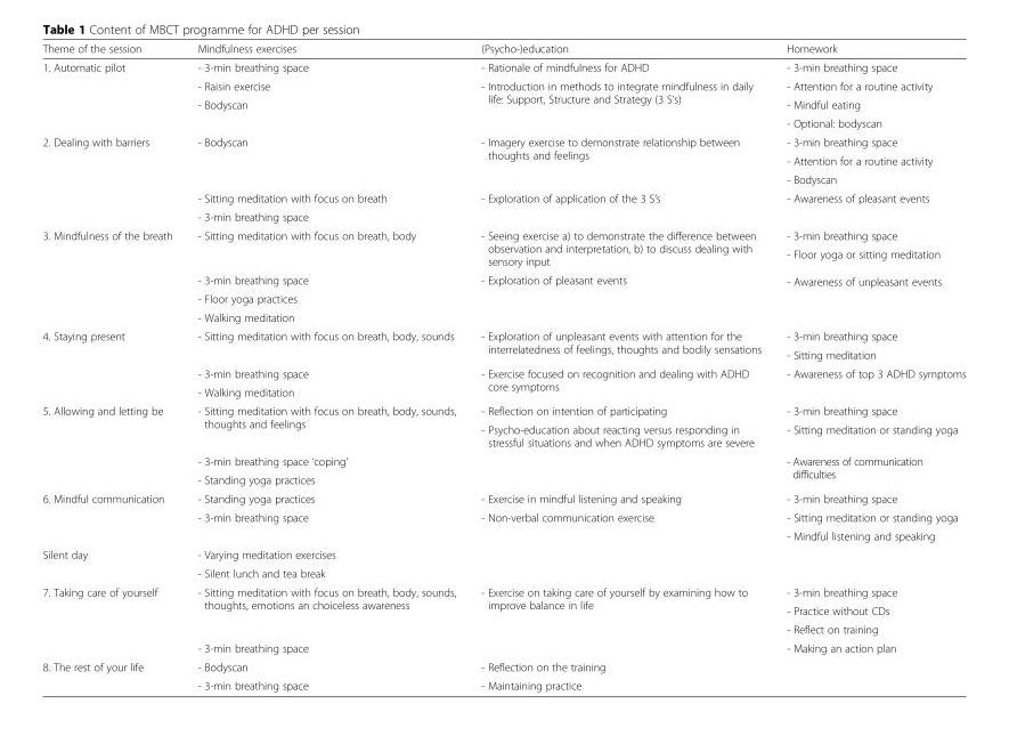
<table><thead><tr><td>Theme of the session</td><td>Mindfulness exercises</td><td>(Psycho-)education</td><td>Homework</td></tr></thead><tbody><tr><td rowspan="4">1. Automatic pilot</td><td>- 3-min breathing space</td><td>- Rationale of mindfulness for ADHD</td><td>- 3-min breathing space</td></tr><tr><td>- Raisin exercise</td><td rowspan="3">- Introduction in methods to integrate mindfulness in daily life: Support, Structure and Strategy (3 S’s)</td><td>- Attention for a routine activity</td></tr><tr><td rowspan="2">- Bodyscan</td><td>- Mindful eating</td></tr><tr><td>- Optional: bodyscan</td></tr><tr><td rowspan="5">2. Dealing with barriers</td><td rowspan="3">- Bodyscan</td><td rowspan="3">- Imagery exercise to demonstrate relationship between thoughts and feelings</td><td>- 3-min breathing space</td></tr><tr><td>- Attention for a routine activity</td></tr><tr><td>- Bodyscan</td></tr><tr><td>- Sitting meditation with focus on breath</td><td rowspan="2">- Exploration of application of the 3 S’s</td><td rowspan="2">- Awareness of pleasant events</td></tr><tr><td>- 3-min breathing space</td></tr><tr><td rowspan="5">3. Mindfulness of the breath</td><td rowspan="2">- Sitting meditation with focus on breath, body</td><td rowspan="2">- Seeing exercise a) to demonstrate the difference between observation and interpretation, b) to discuss dealing with sensory input</td><td>- 3-min breathing space</td></tr><tr><td>- Floor yoga or sitting meditation</td></tr><tr><td>- 3-min breathing space</td><td rowspan="3">- Exploration of pleasant events</td><td rowspan="3">- Awareness of unpleasant events</td></tr><tr><td>- Floor yoga practices</td></tr><tr><td>- Walking meditation</td></tr><tr><td rowspan="4">4. Staying present</td><td rowspan="2">- Sitting meditation with focus on breath, body, sounds</td><td rowspan="2">- Exploration of unpleasant events with attention for the interrelatedness of feelings, thoughts and bodily sensations</td><td>- 3-min breathing space</td></tr><tr><td>- Sitting meditation</td></tr><tr><td>- 3-min breathing space</td><td rowspan="2">- Exercise focused on recognition and dealing with ADHD core symptoms</td><td rowspan="2">- Awareness of top 3 ADHD symptoms</td></tr><tr><td>- Walking meditation</td></tr><tr><td rowspan="4">5. Allowing and letting be</td><td rowspan="2">- Sitting meditation with focus on breath, body, sounds, thoughts and feelings</td><td>- Reflection on intention of participating</td><td>- 3-min breathing space</td></tr><tr><td>- Psycho-education about reacting versus responding in stressful situations and when ADHD symptoms are severe</td><td>- Sitting meditation or standing yoga</td></tr><tr><td>- 3-min breathing space ‘coping’</td><td rowspan="2"></td><td rowspan="2">- Awareness of communication difficulties</td></tr><tr><td>- Standing yoga practices</td></tr><tr><td rowspan="3">6. Mindful communication</td><td>- Standing yoga practices</td><td>- Exercise in mindful listening and speaking</td><td>- 3-min breathing space</td></tr><tr><td rowspan="2">- 3-min breathing space</td><td rowspan="2">- Non-verbal communication exercise</td><td>- Sitting meditation or standing yoga</td></tr><tr><td>- Mindful listening and speaking</td></tr><tr><td rowspan="2">Silent day</td><td>- Varying meditation exercises</td><td rowspan="2"></td><td rowspan="2"></td></tr><tr><td>- Silent lunch and tea break</td></tr><tr><td rowspan="4">7. Taking care of yourself</td><td rowspan="3">- Sitting meditation with focus on breath, body, sounds, thoughts, emotions an choiceless awareness</td><td rowspan="4">- Exercise on taking care of yourself by examining how to improve balance in life</td><td>- 3-min breathing space</td></tr><tr><td>- Practice without CDs</td></tr><tr><td>- Reflect on training</td></tr><tr><td>- 3-min breathing space</td><td>- Making an action plan</td></tr><tr><td rowspan="2">8. The rest of your life</td><td>- Bodyscan</td><td>- Reflection on the training</td><td rowspan="2"></td></tr><tr><td>- 3-min breathing space</td><td>- Maintaining practice</td></tr></tbody></table>